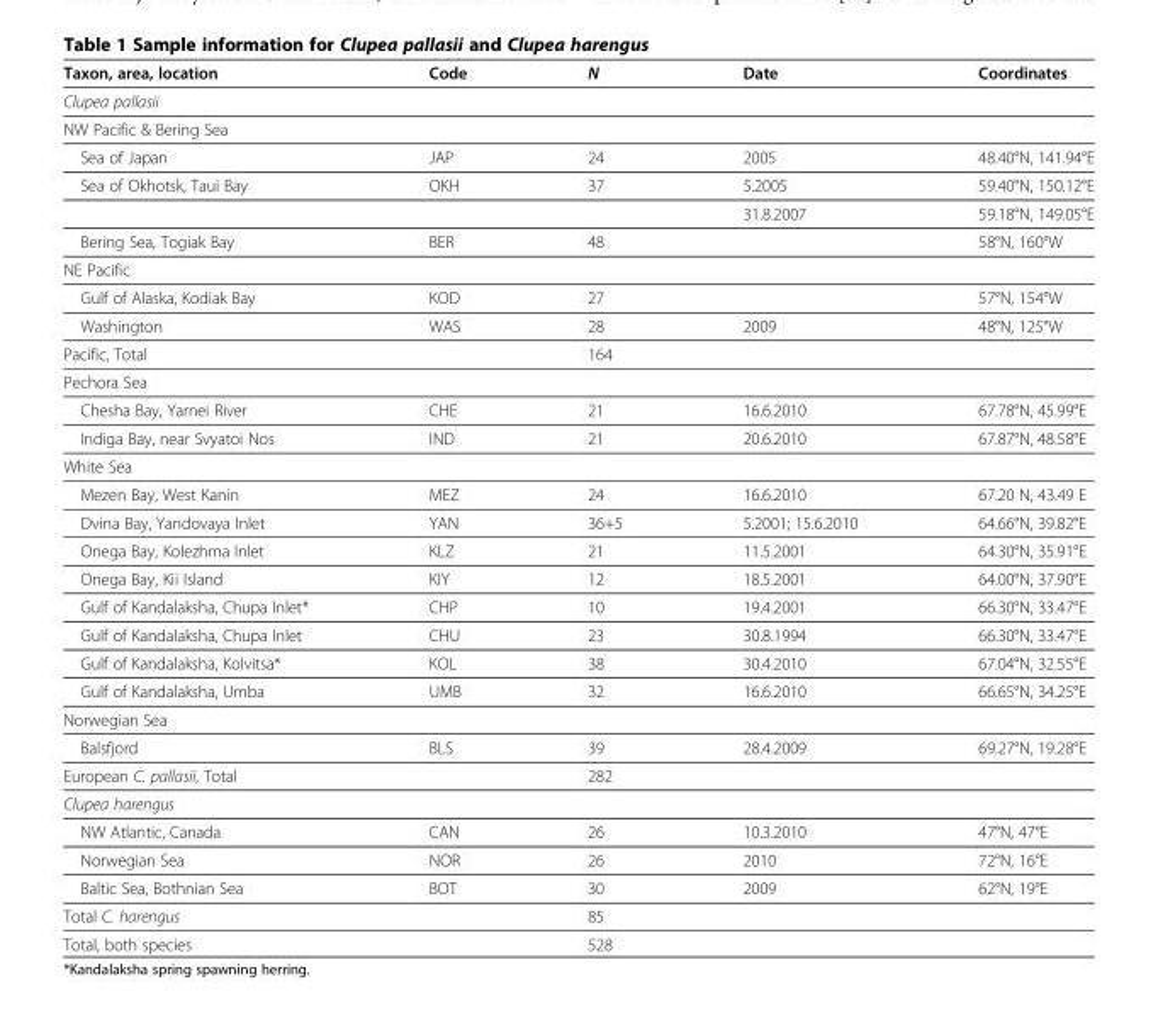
<table><thead><tr><td>Taxon, area, location</td><td>Code</td><td>N</td><td>Date</td><td>Coordinates</td></tr></thead><tbody><tr><td colspan="5">Clupea pallasii</td></tr><tr><td colspan="5">NW Pacific &amp; Bering Sea</td></tr><tr><td>Sea of Japan</td><td>JAP</td><td>24</td><td>2005</td><td>48.40°N, 141.94°E</td></tr><tr><td rowspan="2">Sea of Okhotsk, Taui Bay</td><td>OKH</td><td>37</td><td>5.2005</td><td>59.40°N, 150.12°E</td></tr><tr><td></td><td></td><td>31.8.2007</td><td>59.18°N, 149.05°E</td></tr><tr><td>Bering Sea, Togiak Bay</td><td>BER</td><td>48</td><td></td><td>58°N, 160°W</td></tr><tr><td colspan="5">NE Pacific</td></tr><tr><td>Gulf of Alaska, Kodiak Bay</td><td>KOD</td><td>27</td><td></td><td>57°N, 154°W</td></tr><tr><td>Washington</td><td>WAS</td><td>28</td><td>2009</td><td>48°N, 125°W</td></tr><tr><td>Pacific, Total</td><td></td><td>164</td><td></td><td></td></tr><tr><td colspan="5">Pechora Sea</td></tr><tr><td>Chesha Bay, Yarnei River</td><td>CHE</td><td>21</td><td>16.6.2010</td><td>67.78°N, 45.99°E</td></tr><tr><td>Indiga Bay, near Svyatoi Nos</td><td>IND</td><td>21</td><td>20.6.2010</td><td>67.87°N, 48.58°E</td></tr><tr><td colspan="5">White Sea</td></tr><tr><td>Mezen Bay, West Kanin</td><td>MEZ</td><td>24</td><td>16.6.2010</td><td>67.20 N, 43.49 E</td></tr><tr><td>Dvina Bay, Yandovaya Inlet</td><td>YAN</td><td>36+5</td><td>5.2001; 15.6.2010</td><td>64.66°N, 39.82°E</td></tr><tr><td>Onega Bay, Kolezhma Inlet</td><td>KLZ</td><td>21</td><td>11.5.2001</td><td>64.30°N, 35.91°E</td></tr><tr><td>Onega Bay, Kii Island</td><td>KIY</td><td>12</td><td>18.5.2001</td><td>64.00°N, 37.90°E</td></tr><tr><td>Gulf of Kandalaksha, Chupa Inlet*</td><td>CHP</td><td>10</td><td>19.4.2001</td><td>66.30°N, 33.47°E</td></tr><tr><td>Gulf of Kandalaksha, Chupa Inlet</td><td>CHU</td><td>23</td><td>30.8.1994</td><td>66.30°N, 33.47°E</td></tr><tr><td>Gulf of Kandalaksha, Kolvitsa*</td><td>KOL</td><td>38</td><td>30.4.2010</td><td>67.04°N, 32.55°E</td></tr><tr><td>Gulf of Kandalaksha, Umba</td><td>UMB</td><td>32</td><td>16.6.2010</td><td>66.65°N, 34.25°E</td></tr><tr><td colspan="5">Norwegian Sea</td></tr><tr><td>Balsfjord</td><td>BLS</td><td>39</td><td>28.4.2009</td><td>69.27°N, 19.28°E</td></tr><tr><td>European C. pallasii, Total</td><td></td><td>282</td><td></td><td></td></tr><tr><td colspan="5">Clupea harengus</td></tr><tr><td>NW Atlantic, Canada</td><td>CAN</td><td>26</td><td>10.3.2010</td><td>47°N, 47°E</td></tr><tr><td>Norwegian Sea</td><td>NOR</td><td>26</td><td>2010</td><td>72°N, 16°E</td></tr><tr><td>Baltic Sea, Bothnian Sea</td><td>BOT</td><td>30</td><td>2009</td><td>62°N, 19°E</td></tr><tr><td>Total C. harengus</td><td></td><td>85</td><td></td><td></td></tr><tr><td>Total, both species</td><td></td><td>528</td><td colspan="2"></td></tr></tbody></table>